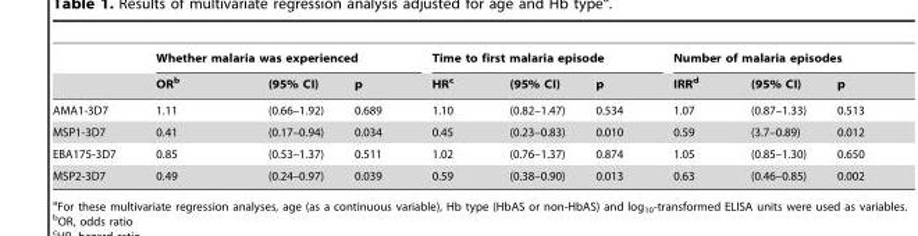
<table><thead><tr><td rowspan="2"></td><td colspan="3">Whether malaria was experienced</td><td colspan="3">Time to first malaria episode</td><td colspan="3">Number of malaria episodes</td></tr><tr><td>OR<sup>b</sup></td><td>(95% CI)</td><td>p</td><td>HR<sup>c</sup></td><td>(95% CI)</td><td>p</td><td>IRR<sup>d</sup></td><td>(95% CI)</td><td>p</td></tr></thead><tbody><tr><td>AMA1-3D7</td><td>1.11</td><td>(0.66–1.92)</td><td>0.689</td><td>1.10</td><td>(0.82–1.47)</td><td>0.534</td><td>1.07</td><td>(0.87–1.33)</td><td>0.513</td></tr><tr><td>MSP1-3D7</td><td>0.41</td><td>(0.17–0.94)</td><td>0.034</td><td>0.45</td><td>(0.23–0.83)</td><td>0.010</td><td>0.59</td><td>(3.7–0.89)</td><td>0.012</td></tr><tr><td>EBA175-3D7</td><td>0.85</td><td>(0.53–1.37)</td><td>0.511</td><td>1.02</td><td>(0.76–1.37)</td><td>0.874</td><td>1.05</td><td>(0.85–1.30)</td><td>0.650</td></tr><tr><td>MSP2-3D7</td><td>0.49</td><td>(0.24–0.97)</td><td>0.039</td><td>0.59</td><td>(0.38–0.90)</td><td>0.013</td><td>0.63</td><td>(0.46–0.85)</td><td>0.002</td></tr></tbody></table>